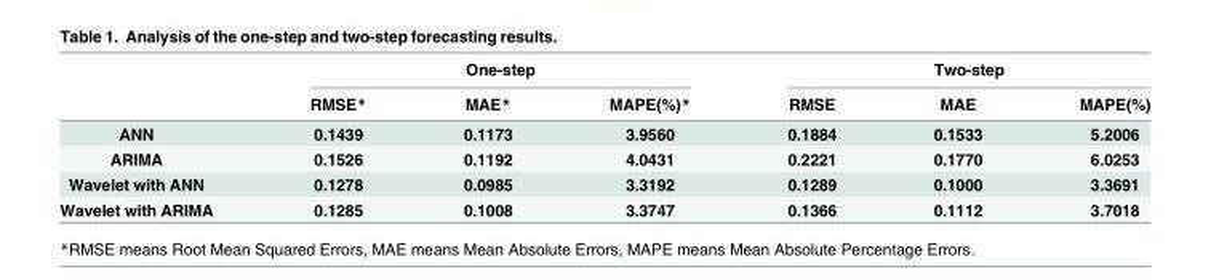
<table><thead><tr><td rowspan="2"></td><td colspan="3">One-step</td><td colspan="3">Two-step</td></tr><tr><td>RMSE*</td><td>MAE*</td><td>MAPE(%)*</td><td>RMSE</td><td>MAE</td><td>MAPE(%)</td></tr></thead><tbody><tr><td>ANN</td><td>0.1439</td><td>0.1173</td><td>3.9560</td><td>0.1884</td><td>0.1533</td><td>5.2006</td></tr><tr><td>ARIMA</td><td>0.1526</td><td>0.1192</td><td>4.0431</td><td>0.2221</td><td>0.1770</td><td>6.0253</td></tr><tr><td>Wavelet with ANN</td><td>0.1278</td><td>0.0985</td><td>3.3192</td><td>0.1289</td><td>0.1000</td><td>3.3691</td></tr><tr><td>Wavelet with ARIMA</td><td>0.1285</td><td>0.1008</td><td>3.3747</td><td>0.1366</td><td>0.1112</td><td>3.7018</td></tr></tbody></table>